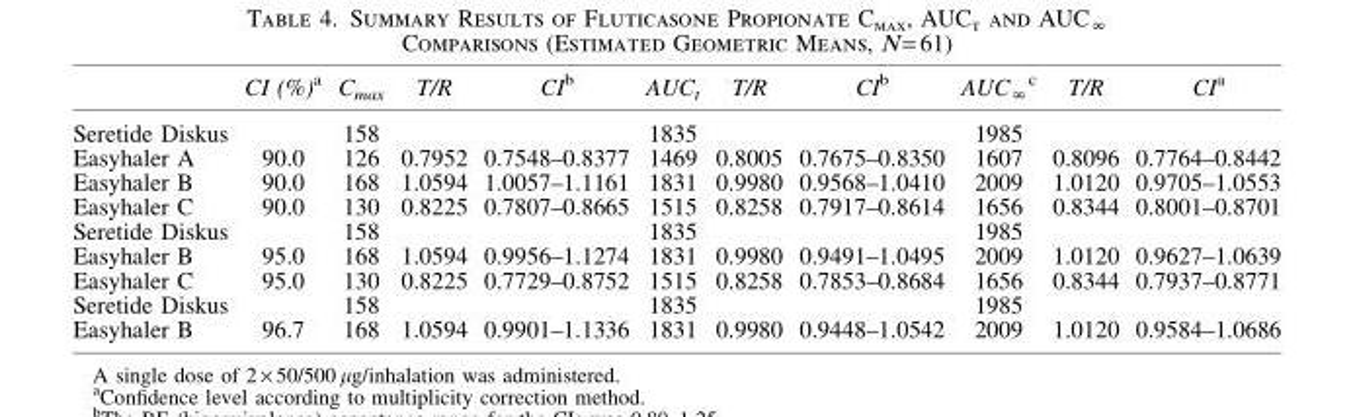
<table><thead><tr><td></td><td>CI (%)<sup>a</sup></td><td>C<sub>max</sub></td><td>T/R</td><td>CI<sup>b</sup></td><td>AUC<sub>t</sub></td><td>T/R</td><td>CI<sup>b</sup></td><td>AUC<sub>∞</sub> <sup>c</sup></td><td>T/R</td><td>CI<sup>a</sup></td></tr></thead><tbody><tr><td>Seretide Diskus</td><td></td><td>158</td><td></td><td></td><td>1835</td><td></td><td></td><td>1985</td><td></td><td></td></tr><tr><td>Easyhaler A</td><td>90.0</td><td>126</td><td>0.7952</td><td>0.7548–0.8377</td><td>1469</td><td>0.8005</td><td>0.7675–0.8350</td><td>1607</td><td>0.8096</td><td>0.7764–0.8442</td></tr><tr><td>Easyhaler B</td><td>90.0</td><td>168</td><td>1.0594</td><td>1.0057–1.1161</td><td>1831</td><td>0.9980</td><td>0.9568–1.0410</td><td>2009</td><td>1.0120</td><td>0.9705–1.0553</td></tr><tr><td>Easyhaler C</td><td>90.0</td><td>130</td><td>0.8225</td><td>0.7807–0.8665</td><td>1515</td><td>0.8258</td><td>0.7917–0.8614</td><td>1656</td><td>0.8344</td><td>0.8001–0.8701</td></tr><tr><td>Seretide Diskus</td><td></td><td>158</td><td></td><td></td><td>1835</td><td></td><td></td><td>1985</td><td></td><td></td></tr><tr><td>Easyhaler B</td><td>95.0</td><td>168</td><td>1.0594</td><td>0.9956–1.1274</td><td>1831</td><td>0.9980</td><td>0.9491–1.0495</td><td>2009</td><td>1.0120</td><td>0.9627–1.0639</td></tr><tr><td>Easyhaler C</td><td>95.0</td><td>130</td><td>0.8225</td><td>0.7729–0.8752</td><td>1515</td><td>0.8258</td><td>0.7853–0.8684</td><td>1656</td><td>0.8344</td><td>0.7937–0.8771</td></tr><tr><td>Seretide Diskus</td><td></td><td>158</td><td></td><td></td><td>1835</td><td></td><td></td><td>1985</td><td></td><td></td></tr><tr><td>Easyhaler B</td><td>96.7</td><td>168</td><td>1.0594</td><td>0.9901–1.1336</td><td>1831</td><td>0.9980</td><td>0.9448–1.0542</td><td>2009</td><td>1.0120</td><td>0.9584–1.0686</td></tr></tbody></table>